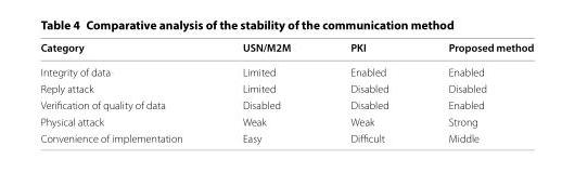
<table><thead><tr><td>Category</td><td>USN/M2M</td><td>PKI</td><td>Proposed method</td></tr></thead><tbody><tr><td>Integrity of data</td><td>Limited</td><td>Enabled</td><td>Enabled</td></tr><tr><td>Reply attack</td><td>Limited</td><td>Disabled</td><td>Disabled</td></tr><tr><td>Verification of quality of data</td><td>Disabled</td><td>Disabled</td><td>Enabled</td></tr><tr><td>Physical attack</td><td>Weak</td><td>Weak</td><td>Strong</td></tr><tr><td>Convenience of implementation</td><td>Easy</td><td>Difficult</td><td>Middle</td></tr></tbody></table>